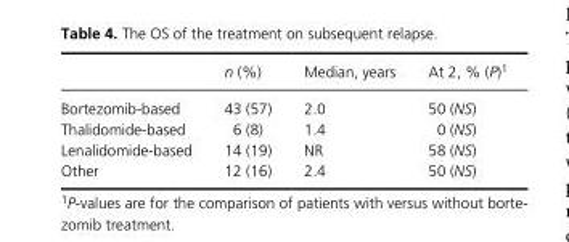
<table><thead><tr><td></td><td>n (%)</td><td>Median, years</td><td>At 2, % (P)1</td></tr></thead><tbody><tr><td>Bortezomib- based</td><td>43 (57)</td><td>2.0</td><td>50 (NS)</td></tr><tr><td>Thalidomide- based</td><td>6 (8)</td><td>1.4</td><td>0 (NS)</td></tr><tr><td>Lenalidomide- based</td><td>14 (19)</td><td>NR</td><td>58 (NS)</td></tr><tr><td>Other</td><td>12 (16)</td><td>2.4</td><td>50 (NS)</td></tr></tbody></table>